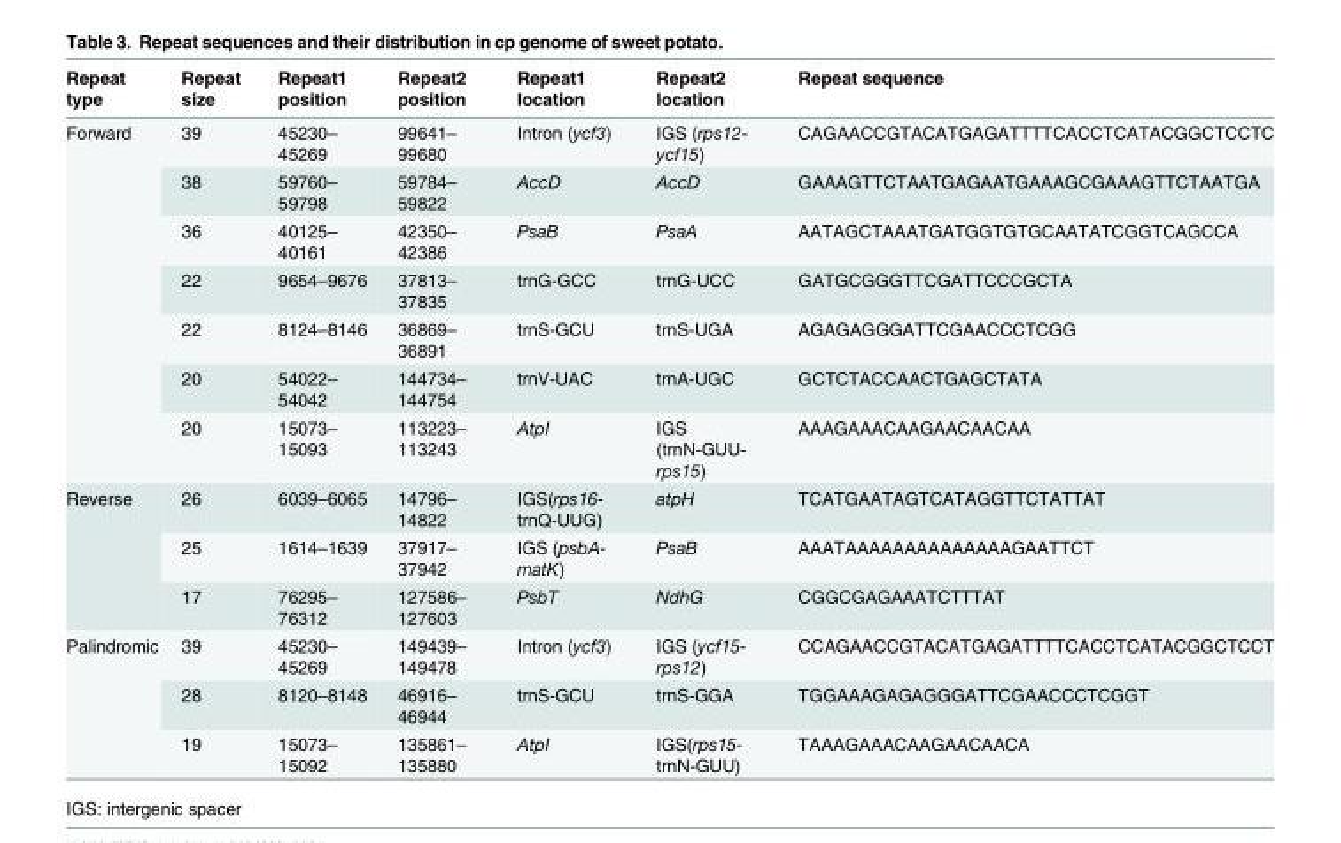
<table><thead><tr><td>Repeat type</td><td>Repeat size</td><td>Repeat1 position</td><td>Repeat2 position</td><td>Repeat1 location</td><td>Repeat2 location</td><td>Repeat sequence</td></tr></thead><tbody><tr><td rowspan="7">Forward</td><td>39</td><td>45230– 45269</td><td>99641– 99680</td><td>Intron (ycf3)</td><td>IGS (rps12- ycf15)</td><td>CAGAACCGTACATGAGATTTTCACCTCATACGGCTCCTC</td></tr><tr><td>38</td><td>59760– 59798</td><td>59784– 59822</td><td>AccD</td><td>AccD</td><td>GAAAGTTCTAATGAGAATGAAAGCGAAAGTTCTAATGA</td></tr><tr><td>36</td><td>40125– 40161</td><td>42350– 42386</td><td>PsaB</td><td>PsaA</td><td>AATAGCTAAATGATGGTGTGCAATATCGGTCAGCCA</td></tr><tr><td>22</td><td>9654–9676</td><td>37813– 37835</td><td>trnG-GCC</td><td>trnG-UCC</td><td>GATGCGGGTTCGATTCCCGCTA</td></tr><tr><td>22</td><td>8124–8146</td><td>36869– 36891</td><td>trnS-GCU</td><td>trnS-UGA</td><td>AGAGAGGGATTCGAACCCTCGG</td></tr><tr><td>20</td><td>54022– 54042</td><td>144734– 144754</td><td>trnV-UAC</td><td>trnA-UGC</td><td>GCTCTACCAACTGAGCTATA</td></tr><tr><td>20</td><td>15073– 15093</td><td>113223– 113243</td><td>AtpI</td><td>IGS (trnN-GUU- rps15)</td><td>AAAGAAACAAGAACAACAA</td></tr><tr><td rowspan="3">Reverse</td><td>26</td><td>6039–6065</td><td>14796– 14822</td><td>IGS(rps16- trnQ-UUG)</td><td>atpH</td><td>TCATGAATAGTCATAGGTTCTATTAT</td></tr><tr><td>25</td><td>1614–1639</td><td>37917– 37942</td><td>IGS (psbA- matK)</td><td>PsaB</td><td>AAATAAAAAAAAAAAAAAGAATTCT</td></tr><tr><td>17</td><td>76295– 76312</td><td>127586– 127603</td><td>PsbT</td><td>NdhG</td><td>CGGCGAGAAATCTTTAT</td></tr><tr><td rowspan="3">Palindromic</td><td>39</td><td>45230– 45269</td><td>149439– 149478</td><td>Intron (ycf3)</td><td>IGS (ycf15- rps12)</td><td>CCAGAACCGTACATGAGATTTTCACCTCATACGGCTCCT</td></tr><tr><td>28</td><td>8120–8148</td><td>46916– 46944</td><td>trnS-GCU</td><td>trnS-GGA</td><td>TGGAAAGAGAGGGATTCGAACCCTCGGT</td></tr><tr><td>19</td><td>15073– 15092</td><td>135861– 135880</td><td>AtpI</td><td>IGS(rps15- trnN-GUU)</td><td>TAAAGAAACAAGAACAACA</td></tr></tbody></table>